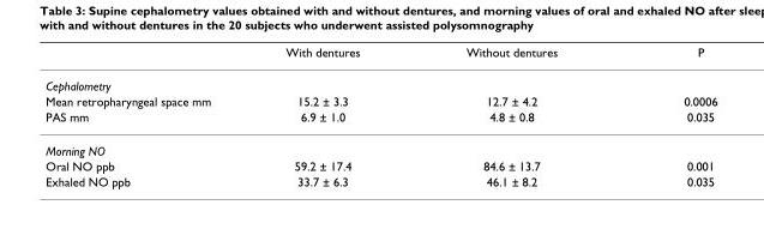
<table><thead><tr><td></td><td>With dentures</td><td>Without dentures</td><td>P</td></tr></thead><tbody><tr><td colspan="4">Cephalometry</td></tr><tr><td>Mean retropharyngeal space mm</td><td>15.2 ± 3.3</td><td>12.7 ± 4.2</td><td>0.0006</td></tr><tr><td>PAS mm</td><td>6.9 ± 1.0</td><td>4.8 ± 0.8</td><td>0.035</td></tr><tr><td colspan="4">Morning NO</td></tr><tr><td>Oral NO ppb</td><td>59.2 ± 17.4</td><td>84.6 ± 13.7</td><td>0.001</td></tr><tr><td>Exhaled NO ppb</td><td>33.7 ± 6.3</td><td>46.1 ± 8.2</td><td>0.035</td></tr></tbody></table>